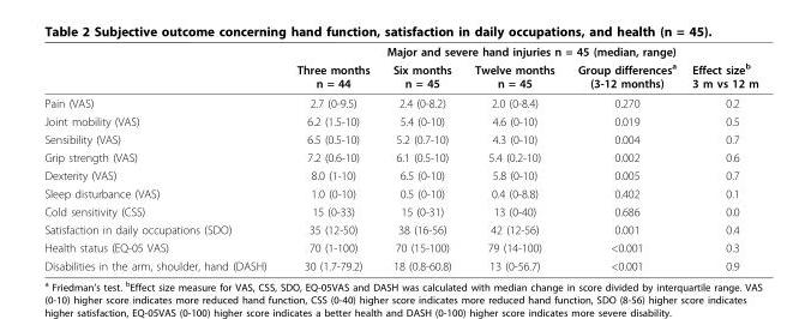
<table><thead><tr><td rowspan="2"></td><td colspan="5">Major and severe hand injuries n = 45 (median, range)</td></tr><tr><td>Three months n = 44</td><td>Six months n = 45</td><td>Twelve months n = 45</td><td>Group differences<sup>a</sup> (3-12 months)</td><td>Effect size<sup>b</sup> 3 m vs 12 m</td></tr></thead><tbody><tr><td>Pain (VAS)</td><td>2.7 (0-9.5)</td><td>2.4 (0-8.2)</td><td>2.0 (0-8.4)</td><td>0.270</td><td>0.2</td></tr><tr><td>Joint mobility (VAS)</td><td>6.2 (1.5-10)</td><td>5.4 (0-10)</td><td>4.6 (0-10)</td><td>0.019</td><td>0.5</td></tr><tr><td>Sensibility (VAS)</td><td>6.5 (0.5-10)</td><td>5.2 (0.7-10)</td><td>4.3 (0-10)</td><td>0.004</td><td>0.7</td></tr><tr><td>Grip strength (VAS)</td><td>7.2 (0.6-10)</td><td>6.1 (0.5-10)</td><td>5.4 (0.2-10)</td><td>0.002</td><td>0.6</td></tr><tr><td>Dexterity (VAS)</td><td>8.0 (1-10)</td><td>6.5 (0-10)</td><td>5.8 (0-10)</td><td>0.005</td><td>0.7</td></tr><tr><td>Sleep disturbance (VAS)</td><td>1.0 (0-10)</td><td>0.5 (0-10)</td><td>0.4 (0-8.8)</td><td>0.402</td><td>0.1</td></tr><tr><td>Cold sensitivity (CSS)</td><td>15 (0-33)</td><td>15 (0-31)</td><td>13 (0-40)</td><td>0.686</td><td>0.0</td></tr><tr><td>Satisfaction in daily occupations (SDO)</td><td>35 (12-50)</td><td>38 (16-56)</td><td>42 (12-56)</td><td>0.001</td><td>0.4</td></tr><tr><td>Health status (EQ-05 VAS)</td><td>70 (1-100)</td><td>70 (15-100)</td><td>79 (14-100)</td><td>&lt;0.001</td><td>0.3</td></tr><tr><td>Disabilities in the arm, shoulder, hand (DASH)</td><td>30 (1.7-79.2)</td><td>18 (0.8-60.8)</td><td>13 (0-56.7)</td><td>&lt;0.001</td><td>0.9</td></tr></tbody></table>